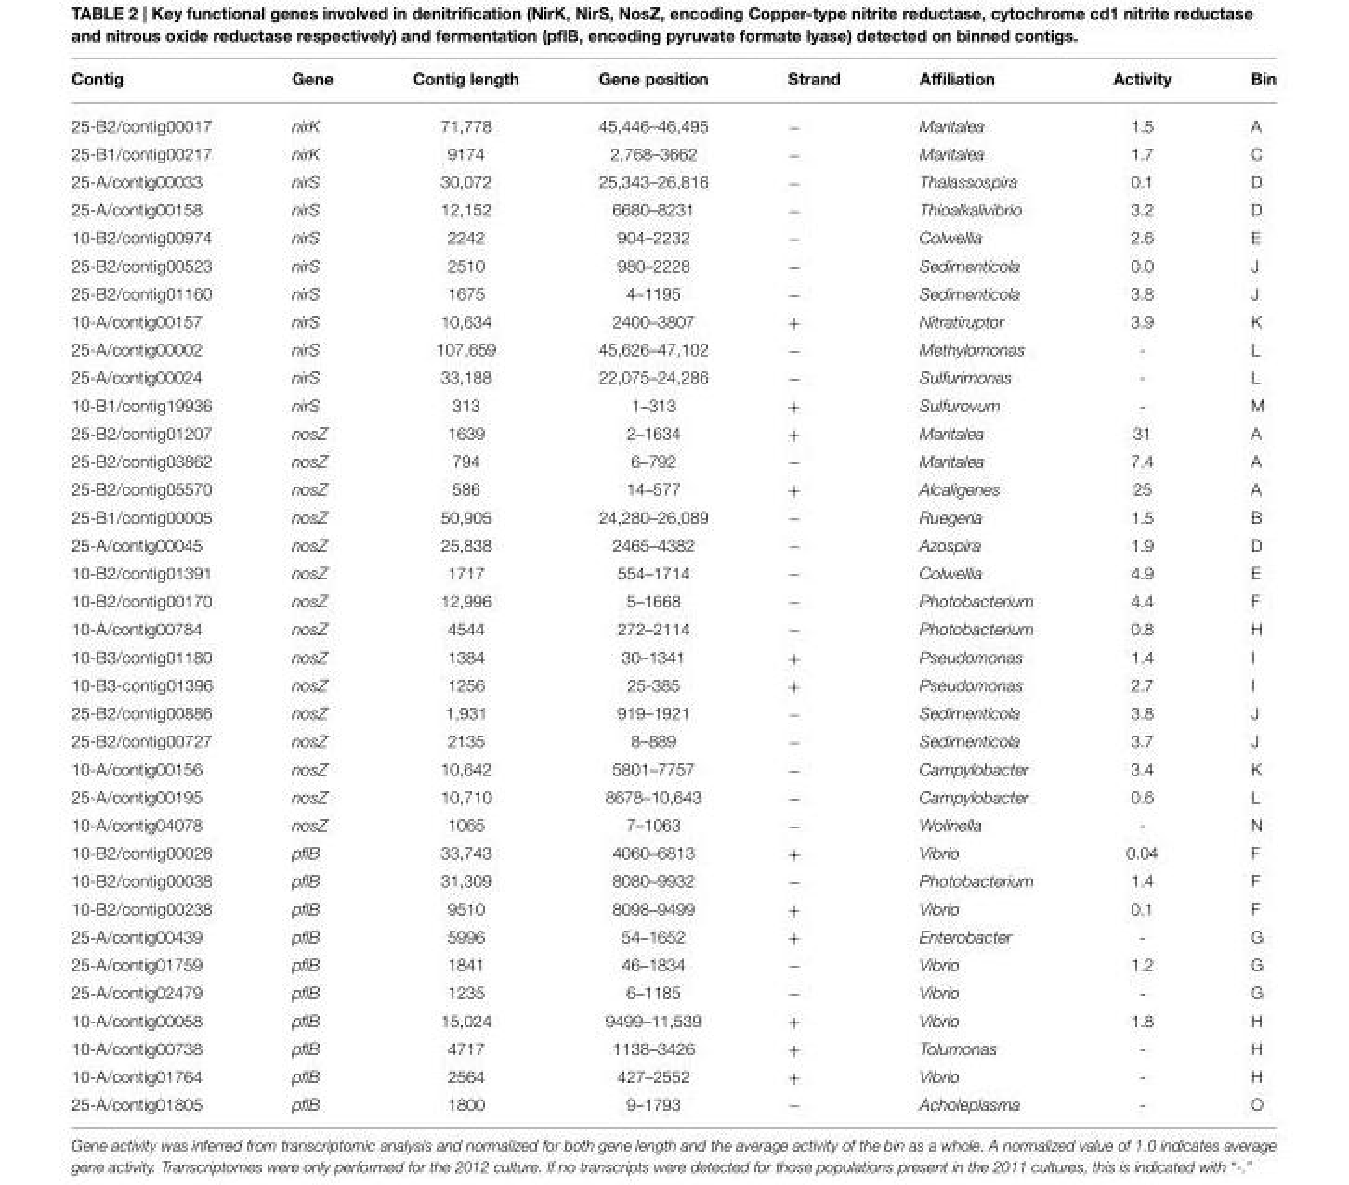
<table><thead><tr><td>Contig</td><td>Gene</td><td>Contig length</td><td>Gene position</td><td>Strand</td><td>Affiliation</td><td>Activity</td><td>Bin</td></tr></thead><tbody><tr><td>25-B2/contig00017</td><td>nirK</td><td>71,778</td><td>45,446–46,495</td><td>−</td><td>Maritalea</td><td>1.5</td><td>A</td></tr><tr><td>25-B1/contig00217</td><td>nirK</td><td>9174</td><td>2,768–3662</td><td>−</td><td>Maritalea</td><td>1.7</td><td>C</td></tr><tr><td>25-A/contig00033</td><td>nirS</td><td>30,072</td><td>25,343–26,816</td><td>−</td><td>Thalassospira</td><td>0.1</td><td>D</td></tr><tr><td>25-A/contig00158</td><td>nirS</td><td>12,152</td><td>6680–8231</td><td>−</td><td>Thioalkalivibrio</td><td>3.2</td><td>D</td></tr><tr><td>10-B2/contig00974</td><td>nirS</td><td>2242</td><td>904–2232</td><td>−</td><td>Colwellia</td><td>2.6</td><td>E</td></tr><tr><td>25-B2/contig00523</td><td>nirS</td><td>2510</td><td>980–2228</td><td>−</td><td>Sedimenticola</td><td>0.0</td><td>J</td></tr><tr><td>25-B2/contig01160</td><td>nirS</td><td>1675</td><td>4–1195</td><td>−</td><td>Sedimenticola</td><td>3.8</td><td>J</td></tr><tr><td>10-A/contig00157</td><td>nirS</td><td>10,634</td><td>2400–3807</td><td>+</td><td>Nitratiruptor</td><td>3.9</td><td>K</td></tr><tr><td>25-A/contig00002</td><td>nirS</td><td>107,659</td><td>45,626–47,102</td><td>−</td><td>Methylomonas</td><td>-</td><td>L</td></tr><tr><td>25-A/contig00024</td><td>nirS</td><td>33,188</td><td>22,075–24,286</td><td>−</td><td>Sulfurimonas</td><td>-</td><td>L</td></tr><tr><td>10-B1/contig19936</td><td>nirS</td><td>313</td><td>1–313</td><td>+</td><td>Sulfurovum</td><td>-</td><td>M</td></tr><tr><td>25-B2/contig01207</td><td>nosZ</td><td>1639</td><td>2–1634</td><td>+</td><td>Maritalea</td><td>31</td><td>A</td></tr><tr><td>25-B2/contig03862</td><td>nosZ</td><td>794</td><td>6–792</td><td>−</td><td>Maritalea</td><td>7.4</td><td>A</td></tr><tr><td>25-B2/contig05570</td><td>nosZ</td><td>586</td><td>14–577</td><td>+</td><td>Alcaligenes</td><td>25</td><td>A</td></tr><tr><td>25-B1/contig00005</td><td>nosZ</td><td>50,905</td><td>24,280–26,089</td><td>−</td><td>Ruegeria</td><td>1.5</td><td>B</td></tr><tr><td>25-A/contig00045</td><td>nosZ</td><td>25,838</td><td>2465–4382</td><td>−</td><td>Azospira</td><td>1.9</td><td>D</td></tr><tr><td>10-B2/contig01391</td><td>nosZ</td><td>1717</td><td>554–1714</td><td>−</td><td>Colwellia</td><td>4.9</td><td>E</td></tr><tr><td>10-B2/contig00170</td><td>nosZ</td><td>12,996</td><td>5–1668</td><td>−</td><td>Photobacterium</td><td>4.4</td><td>F</td></tr><tr><td>10-A/contig00784</td><td>nosZ</td><td>4544</td><td>272–2114</td><td>−</td><td>Photobacterium</td><td>0.8</td><td>H</td></tr><tr><td>10-B3/contig01180</td><td>nosZ</td><td>1384</td><td>30–1341</td><td>+</td><td>Pseudomonas</td><td>1.4</td><td>I</td></tr><tr><td>10-B3-contig01396</td><td>nosZ</td><td>1256</td><td>25-385</td><td>+</td><td>Pseudomonas</td><td>2.7</td><td>I</td></tr><tr><td>25-B2/contig00886</td><td>nosZ</td><td>1,931</td><td>919–1921</td><td>−</td><td>Sedimenticola</td><td>3.8</td><td>J</td></tr><tr><td>25-B2/contig00727</td><td>nosZ</td><td>2135</td><td>8–889</td><td>−</td><td>Sedimenticola</td><td>3.7</td><td>J</td></tr><tr><td>10-A/contig00156</td><td>nosZ</td><td>10,642</td><td>5801–7757</td><td>−</td><td>Campylobacter</td><td>3.4</td><td>K</td></tr><tr><td>25-A/contig00195</td><td>nosZ</td><td>10,710</td><td>8678–10,643</td><td>−</td><td>Campylobacter</td><td>0.6</td><td>L</td></tr><tr><td>10-A/contig04078</td><td>nosZ</td><td>1065</td><td>7–1063</td><td>−</td><td>Wolinella</td><td>-</td><td>N</td></tr><tr><td>10-B2/contig00028</td><td>pflB</td><td>33,743</td><td>4060–6813</td><td>+</td><td>Vibrio</td><td>0.04</td><td>F</td></tr><tr><td>10-B2/contig00038</td><td>pflB</td><td>31,309</td><td>8080–9932</td><td>−</td><td>Photobacterium</td><td>1.4</td><td>F</td></tr><tr><td>10-B2/contig00238</td><td>pflB</td><td>9510</td><td>8098–9499</td><td>+</td><td>Vibrio</td><td>0.1</td><td>F</td></tr><tr><td>25-A/contig00439</td><td>pflB</td><td>5996</td><td>54–1652</td><td>+</td><td>Enterobacter</td><td>-</td><td>G</td></tr><tr><td>25-A/contig01759</td><td>pflB</td><td>1841</td><td>46–1834</td><td>−</td><td>Vibrio</td><td>1.2</td><td>G</td></tr><tr><td>25-A/contig02479</td><td>pflB</td><td>1235</td><td>6–1185</td><td>−</td><td>Vibrio</td><td>-</td><td>G</td></tr><tr><td>10-A/contig00058</td><td>pflB</td><td>15,024</td><td>9499–11,539</td><td>+</td><td>Vibrio</td><td>1.8</td><td>H</td></tr><tr><td>10-A/contig00738</td><td>pflB</td><td>4717</td><td>1138–3426</td><td>+</td><td>Tolumonas</td><td>-</td><td>H</td></tr><tr><td>10-A/contig01764</td><td>pflB</td><td>2564</td><td>427–2552</td><td>+</td><td>Vibrio</td><td>-</td><td>H</td></tr><tr><td>25-A/contig01805</td><td>pflB</td><td>1800</td><td>9–1793</td><td>−</td><td>Acholeplasma</td><td>-</td><td>O</td></tr></tbody></table>